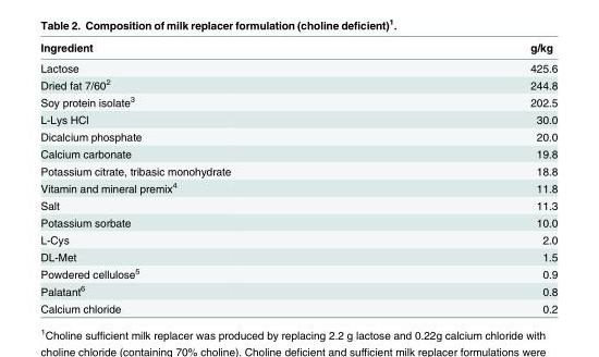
<table><thead><tr><td>Ingredient</td><td>g/kg</td></tr></thead><tbody><tr><td>Lactose</td><td>425.6</td></tr><tr><td>Dried fat 7/60<sup>2</sup></td><td>244.8</td></tr><tr><td>Soy protein isolate<sup>3</sup></td><td>202.5</td></tr><tr><td>L-Lys HCl</td><td>30.0</td></tr><tr><td>Dicalcium phosphate</td><td>20.0</td></tr><tr><td>Calcium carbonate</td><td>19.8</td></tr><tr><td>Potassium citrate, tribasic monohydrate</td><td>18.8</td></tr><tr><td>Vitamin and mineral premix<sup>4</sup></td><td>11.8</td></tr><tr><td>Salt</td><td>11.3</td></tr><tr><td>Potassium sorbate</td><td>10.0</td></tr><tr><td>L-Cys</td><td>2.0</td></tr><tr><td>DL-Met</td><td>1.5</td></tr><tr><td>Powdered cellulose<sup>5</sup></td><td>0.9</td></tr><tr><td>Palatant<sup>6</sup></td><td>0.8</td></tr><tr><td>Calcium chloride</td><td>0.2</td></tr></tbody></table>